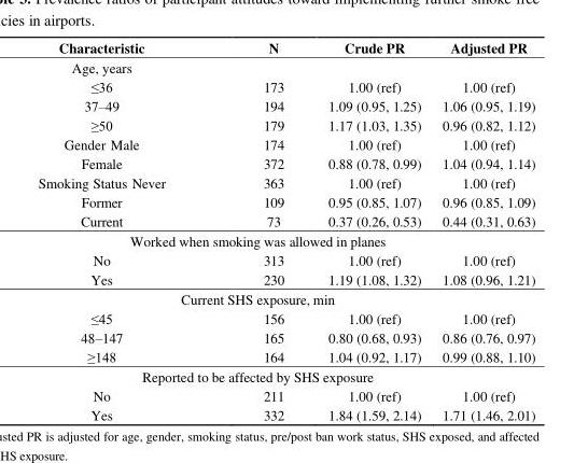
<table><thead><tr><td>Characteristic</td><td>N</td><td>Crude PR</td><td>Adjusted PR</td></tr></thead><tbody><tr><td colspan="4">Age, years</td></tr><tr><td>≤36</td><td>173</td><td>1.00 (ref)</td><td>1.00 (ref)</td></tr><tr><td>37–49</td><td>194</td><td>1.09 (0.95, 1.25)</td><td>1.06 (0.95, 1.19)</td></tr><tr><td>≥50</td><td>179</td><td>1.17 (1.03, 1.35)</td><td>0.96 (0.82, 1.12)</td></tr><tr><td>Gender Male</td><td>174</td><td>1.00 (ref)</td><td>1.00 (ref)</td></tr><tr><td>Female</td><td>372</td><td>0.88 (0.78, 0.99)</td><td>1.04 (0.94, 1.14)</td></tr><tr><td>Smoking Status Never</td><td>363</td><td>1.00 (ref)</td><td>1.00 (ref)</td></tr><tr><td>Former</td><td>109</td><td>0.95 (0.85, 1.07)</td><td>0.96 (0.85, 1.09)</td></tr><tr><td>Current</td><td>73</td><td>0.37 (0.26, 0.53)</td><td>0.44 (0.31, 0.63)</td></tr><tr><td colspan="4">Worked when smoking was allowed in planes</td></tr><tr><td>No</td><td>313</td><td>1.00 (ref)</td><td>1.00 (ref)</td></tr><tr><td>Yes</td><td>230</td><td>1.19 (1.08, 1.32)</td><td>1.08 (0.96, 1.21)</td></tr><tr><td colspan="4">Current SHS exposure, min</td></tr><tr><td>≤45</td><td>156</td><td>1.00 (ref)</td><td>1.00 (ref)</td></tr><tr><td>48–147</td><td>165</td><td>0.80 (0.68, 0.93)</td><td>0.86 (0.76, 0.97)</td></tr><tr><td>≥148</td><td>164</td><td>1.04 (0.92, 1.17)</td><td>0.99 (0.88, 1.10)</td></tr><tr><td colspan="4">Reported to be affected by SHS exposure</td></tr><tr><td>No</td><td>211</td><td>1.00 (ref)</td><td>1.00 (ref)</td></tr><tr><td>Yes</td><td>332</td><td>1.84 (1.59, 2.14)</td><td>1.71 (1.46, 2.01)</td></tr></tbody></table>